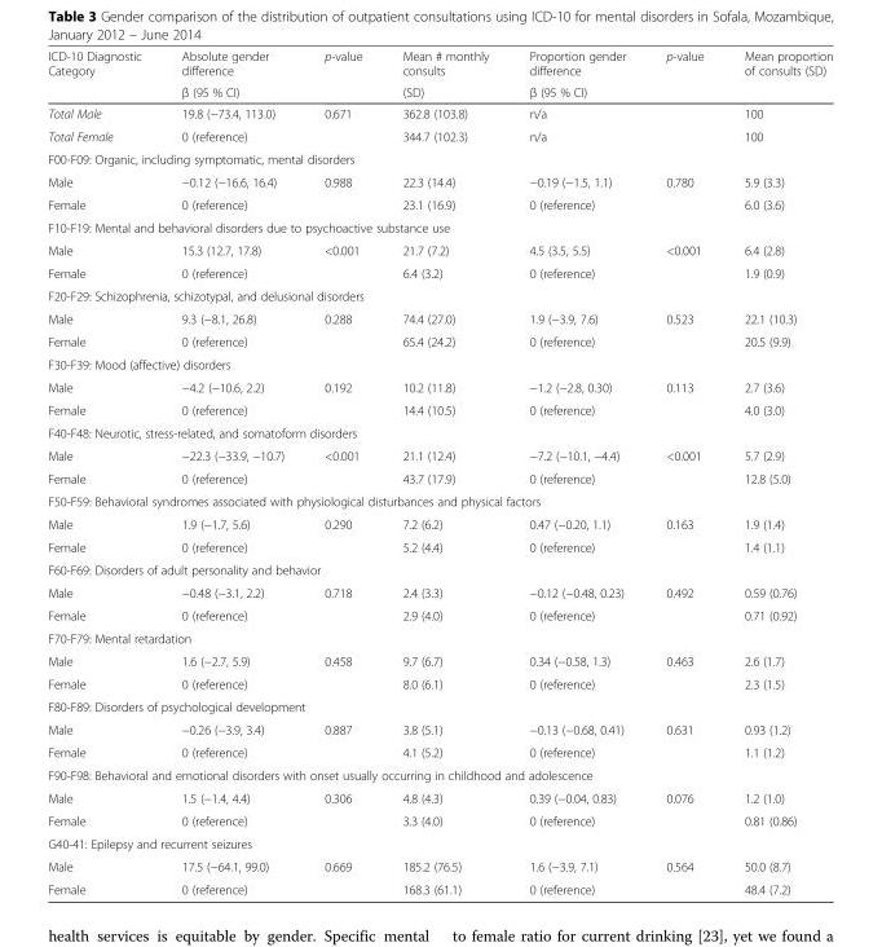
<table><thead><tr><td rowspan="2">ICD-10 Diagnostic Category</td><td rowspan="2">Absolute gender difference β (95 % CI)</td><td rowspan="2">p-value</td><td rowspan="2">Mean # monthly consults (SD)</td><td rowspan="2">Proportion gender difference β (95 % CI)</td><td rowspan="2">p-value</td><td rowspan="2">Mean proportion of consults (SD)</td></tr><tr></tr></thead><tbody><tr><td>Total Male</td><td>19.8 (−73.4, 113.0)</td><td>0.671</td><td>362.8 (103.8)</td><td>n/a</td><td></td><td>100</td></tr><tr><td>Total Female</td><td>0 (reference)</td><td></td><td>344.7 (102.3)</td><td>n/a</td><td></td><td>100</td></tr><tr><td colspan="7">F00-F09: Organic, including symptomatic, mental disorders</td></tr><tr><td>Male</td><td>−0.12 (−16.6, 16.4)</td><td>0.988</td><td>22.3 (14.4)</td><td>−0.19 (−1.5, 1.1)</td><td>0.780</td><td>5.9 (3.3)</td></tr><tr><td>Female</td><td>0 (reference)</td><td></td><td>23.1 (16.9)</td><td>0 (reference)</td><td></td><td>6.0 (3.6)</td></tr><tr><td colspan="7">F10-F19: Mental and behavioral disorders due to psychoactive substance use</td></tr><tr><td>Male</td><td>15.3 (12.7, 17.8)</td><td>&lt;0.001</td><td>21.7 (7.2)</td><td>4.5 (3.5, 5.5)</td><td>&lt;0.001</td><td>6.4 (2.8)</td></tr><tr><td>Female</td><td>0 (reference)</td><td></td><td>6.4 (3.2)</td><td>0 (reference)</td><td></td><td>1.9 (0.9)</td></tr><tr><td colspan="7">F20-F29: Schizophrenia, schizotypal, and delusional disorders</td></tr><tr><td>Male</td><td>9.3 (−8.1, 26.8)</td><td>0.288</td><td>74.4 (27.0)</td><td>1.9 (−3.9, 7.6)</td><td>0.523</td><td>22.1 (10.3)</td></tr><tr><td>Female</td><td>0 (reference)</td><td></td><td>65.4 (24.2)</td><td>0 (reference)</td><td></td><td>20.5 (9.9)</td></tr><tr><td colspan="7">F30-F39: Mood (affective) disorders</td></tr><tr><td>Male</td><td>−4.2 (−10.6, 2.2)</td><td>0.192</td><td>10.2 (11.8)</td><td>−1.2 (−2.8, 0.30)</td><td>0.113</td><td>2.7 (3.6)</td></tr><tr><td>Female</td><td>0 (reference)</td><td></td><td>14.4 (10.5)</td><td>0 (reference)</td><td></td><td>4.0 (3.0)</td></tr><tr><td colspan="7">F40-F48: Neurotic, stress-related, and somatoform disorders</td></tr><tr><td>Male</td><td>−22.3 (−33.9, −10.7)</td><td>&lt;0.001</td><td>21.1 (12.4)</td><td>−7.2 (−10.1, −4.4)</td><td>&lt;0.001</td><td>5.7 (2.9)</td></tr><tr><td>Female</td><td>0 (reference)</td><td></td><td>43.7 (17.9)</td><td>0 (reference)</td><td></td><td>12.8 (5.0)</td></tr><tr><td colspan="7">F50-F59: Behavioral syndromes associated with physiological disturbances and physical factors</td></tr><tr><td>Male</td><td>1.9 (−1.7, 5.6)</td><td>0.290</td><td>7.2 (6.2)</td><td>0.47 (−0.20, 1.1)</td><td>0.163</td><td>1.9 (1.4)</td></tr><tr><td>Female</td><td>0 (reference)</td><td></td><td>5.2 (4.4)</td><td>0 (reference)</td><td></td><td>1.4 (1.1)</td></tr><tr><td colspan="7">F60-F69: Disorders of adult personality and behavior</td></tr><tr><td>Male</td><td>−0.48 (−3.1, 2.2)</td><td>0.718</td><td>2.4 (3.3)</td><td>−0.12 (−0.48, 0.23)</td><td>0.492</td><td>0.59 (0.76)</td></tr><tr><td>Female</td><td>0 (reference)</td><td></td><td>2.9 (4.0)</td><td>0 (reference)</td><td></td><td>0.71 (0.92)</td></tr><tr><td colspan="7">F70-F79: Mental retardation</td></tr><tr><td>Male</td><td>1.6 (−2.7, 5.9)</td><td>0.458</td><td>9.7 (6.7)</td><td>0.34 (−0.58, 1.3)</td><td>0.463</td><td>2.6 (1.7)</td></tr><tr><td>Female</td><td>0 (reference)</td><td></td><td>8.0 (6.1)</td><td>0 (reference)</td><td></td><td>2.3 (1.5)</td></tr><tr><td colspan="7">F80-F89: Disorders of psychological development</td></tr><tr><td>Male</td><td>−0.26 (−3.9, 3.4)</td><td>0.887</td><td>3.8 (5.1)</td><td>−0.13 (−0.68, 0.41)</td><td>0.631</td><td>0.93 (1.2)</td></tr><tr><td>Female</td><td>0 (reference)</td><td></td><td>4.1 (5.2)</td><td>0 (reference)</td><td></td><td>1.1 (1.2)</td></tr><tr><td colspan="7">F90-F98: Behavioral and emotional disorders with onset usually occurring in childhood and adolescence</td></tr><tr><td>Male</td><td>1.5 (−1.4, 4.4)</td><td>0.306</td><td>4.8 (4.3)</td><td>0.39 (−0.04, 0.83)</td><td>0.076</td><td>1.2 (1.0)</td></tr><tr><td>Female</td><td>0 (reference)</td><td></td><td>3.3 (4.0)</td><td>0 (reference)</td><td></td><td>0.81 (0.86)</td></tr><tr><td colspan="7">G40-41: Epilepsy and recurrent seizures</td></tr><tr><td>Male</td><td>17.5 (−64.1, 99.0)</td><td>0.669</td><td>185.2 (76.5)</td><td>1.6 (−3.9, 7.1)</td><td>0.564</td><td>50.0 (8.7)</td></tr><tr><td>Female</td><td>0 (reference)</td><td></td><td>168.3 (61.1)</td><td>0 (reference)</td><td></td><td>48.4 (7.2)</td></tr></tbody></table>